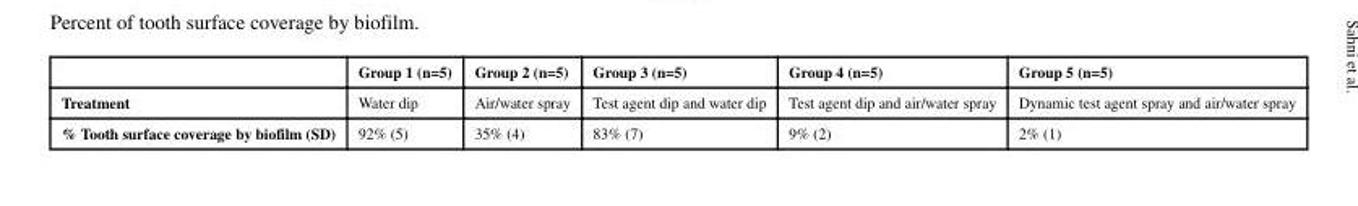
<table><thead><tr><td></td><td>Group 1 (n=5)</td><td>Group 2 (n=5)</td><td>Group 3 (n=5)</td><td>Group 4 (n=5)</td><td>Group 5 (n=5)</td></tr></thead><tbody><tr><td>Treatment</td><td>Water dip</td><td>Air/water spray</td><td>Test agent dip and water dip</td><td>Test agent dip and air/water spray</td><td>Dynamic test agent spray and air/water spray</td></tr><tr><td>% Tooth surface coverage by biofilm (SD)</td><td>92% (5)</td><td>35% (4)</td><td>83% (7)</td><td>9% (2)</td><td>2% (1)</td></tr></tbody></table>